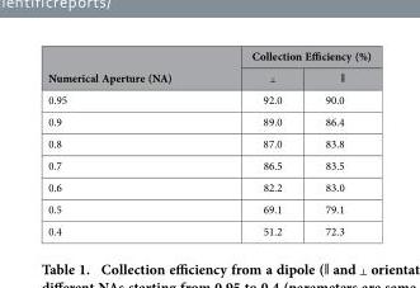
<table><thead><tr><td rowspan="2">Numerical Aperture (NA)</td><td colspan="2">Collection Efficiency (%)</td></tr><tr><td><sub>┴</sub></td><td>ǁ</td></tr></thead><tbody><tr><td>0.95</td><td>92.0</td><td>90.0</td></tr><tr><td>0.9</td><td>89.0</td><td>86.4</td></tr><tr><td>0.8</td><td>87.0</td><td>83.8</td></tr><tr><td>0.7</td><td>86.5</td><td>83.5</td></tr><tr><td>0.6</td><td>82.2</td><td>83.0</td></tr><tr><td>0.5</td><td>69.1</td><td>79.1</td></tr><tr><td>0.4</td><td>51.2</td><td>72.3</td></tr></tbody></table>